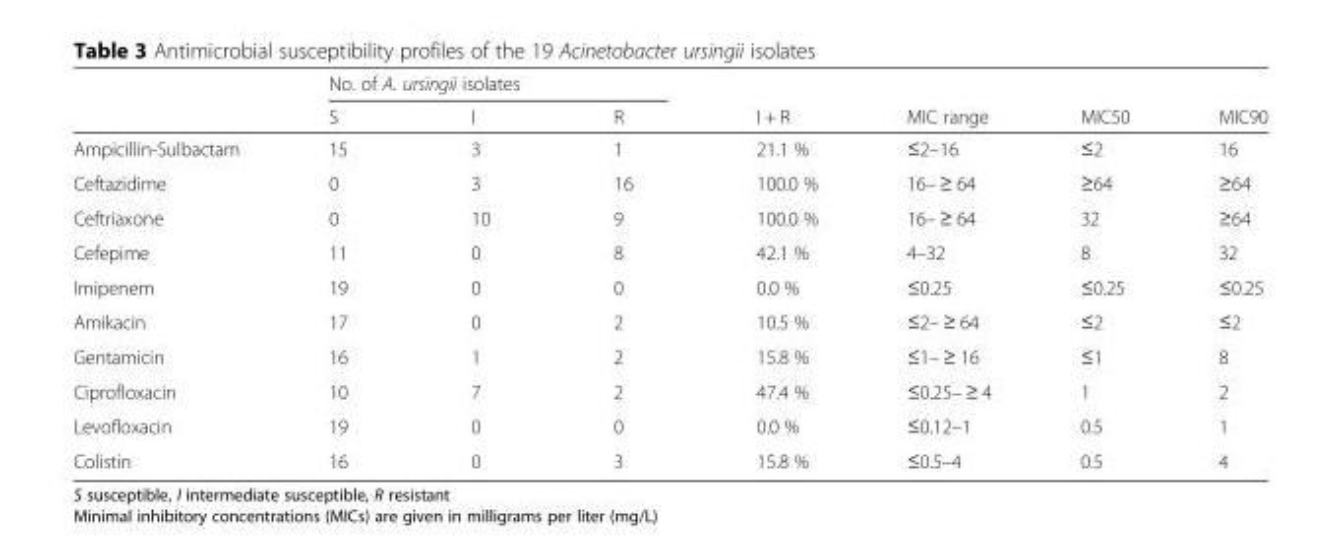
<table><thead><tr><td rowspan="2"></td><td colspan="3">No. of A. ursingii isolates</td><td rowspan="2">I + R</td><td rowspan="2">MIC range</td><td rowspan="2">MIC50</td><td rowspan="2">MIC90</td></tr><tr><td>S</td><td>I</td><td>R</td></tr></thead><tbody><tr><td>Ampicillin-Sulbactam</td><td>15</td><td>3</td><td>1</td><td>21.1 %</td><td>≤2–16</td><td>≤2</td><td>16</td></tr><tr><td>Ceftazidime</td><td>0</td><td>3</td><td>16</td><td>100.0 %</td><td>16– ≥ 64</td><td>≥64</td><td>≥64</td></tr><tr><td>Ceftriaxone</td><td>0</td><td>10</td><td>9</td><td>100.0 %</td><td>16– ≥ 64</td><td>32</td><td>≥64</td></tr><tr><td>Cefepime</td><td>11</td><td>0</td><td>8</td><td>42.1 %</td><td>4–32</td><td>8</td><td>32</td></tr><tr><td>Imipenem</td><td>19</td><td>0</td><td>0</td><td>0.0 %</td><td>≤0.25</td><td>≤0.25</td><td>≤0.25</td></tr><tr><td>Amikacin</td><td>17</td><td>0</td><td>2</td><td>10.5 %</td><td>≤2– ≥ 64</td><td>≤2</td><td>≤2</td></tr><tr><td>Gentamicin</td><td>16</td><td>1</td><td>2</td><td>15.8 %</td><td>≤1– ≥ 16</td><td>≤1</td><td>8</td></tr><tr><td>Ciprofloxacin</td><td>10</td><td>7</td><td>2</td><td>47.4 %</td><td>≤0.25– ≥ 4</td><td>1</td><td>2</td></tr><tr><td>Levofloxacin</td><td>19</td><td>0</td><td>0</td><td>0.0 %</td><td>≤0.12–1</td><td>0.5</td><td>1</td></tr><tr><td>Colistin</td><td>16</td><td>0</td><td>3</td><td>15.8 %</td><td>≤0.5–4</td><td>0.5</td><td>4</td></tr></tbody></table>